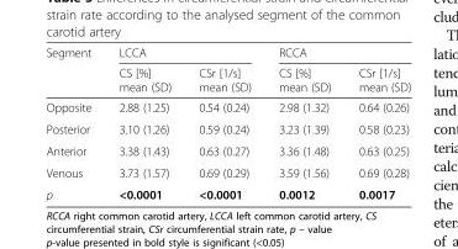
<table><thead><tr><td rowspan="2">Segment</td><td colspan="2">LCCA</td><td colspan="2">RCCA</td></tr><tr><td>CS [%] mean (SD)</td><td>CSr [1/s] mean (SD)</td><td>CS [%] mean (SD)</td><td>CSr [1/s] mean (SD)</td></tr></thead><tbody><tr><td>Opposite</td><td>2.88 (1.25)</td><td>0.54 (0.24)</td><td>2.98 (1.32)</td><td>0.64 (0.26)</td></tr><tr><td>Posterior</td><td>3.10 (1.26)</td><td>0.59 (0.24)</td><td>3.23 (1.39)</td><td>0.58 (0.23)</td></tr><tr><td>Anterior</td><td>3.38 (1.43)</td><td>0.63 (0.27)</td><td>3.36 (1.48)</td><td>0.63 (0.25)</td></tr><tr><td>Venous</td><td>3.73 (1.57)</td><td>0.69 (0.29)</td><td>3.59 (1.56)</td><td>0.69 (0.28)</td></tr><tr><td>p</td><td>&lt;0.0001</td><td>&lt;0.0001</td><td>0.0012</td><td>0.0017</td></tr></tbody></table>